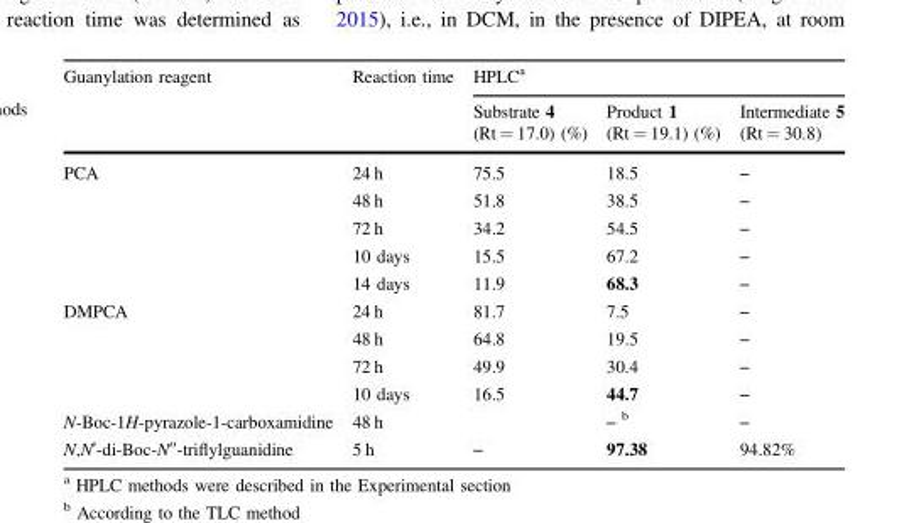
<table><thead><tr><td rowspan="2">Guanylation reagent</td><td rowspan="2">Reaction time</td><td colspan="3">HPLC<sup>a</sup></td></tr><tr><td>Substrate 4 (Rt = 17.0) (%)</td><td>Product 1 (Rt = 19.1) (%)</td><td>Intermediate 5 (Rt = 30.8)</td></tr></thead><tbody><tr><td rowspan="5">PCA</td><td>24 h</td><td>75.5</td><td>18.5</td><td>–</td></tr><tr><td>48 h</td><td>51.8</td><td>38.5</td><td>–</td></tr><tr><td>72 h</td><td>34.2</td><td>54.5</td><td>–</td></tr><tr><td>10 days</td><td>15.5</td><td>67.2</td><td>–</td></tr><tr><td>14 days</td><td>11.9</td><td>68.3</td><td>–</td></tr><tr><td rowspan="4">DMPCA</td><td>24 h</td><td>81.7</td><td>7.5</td><td>–</td></tr><tr><td>48 h</td><td>64.8</td><td>19.5</td><td>–</td></tr><tr><td>72 h</td><td>49.9</td><td>30.4</td><td>–</td></tr><tr><td>10 days</td><td>16.5</td><td>44.7</td><td>–</td></tr><tr><td>N-Boc-1H-pyrazole-1-carboxamidine</td><td>48 h</td><td></td><td>– <sup>b</sup></td><td>–</td></tr><tr><td>N,N’-di-Boc-N′′-triflylguanidine</td><td>5 h</td><td>–</td><td>97.38</td><td>94.82%</td></tr></tbody></table>